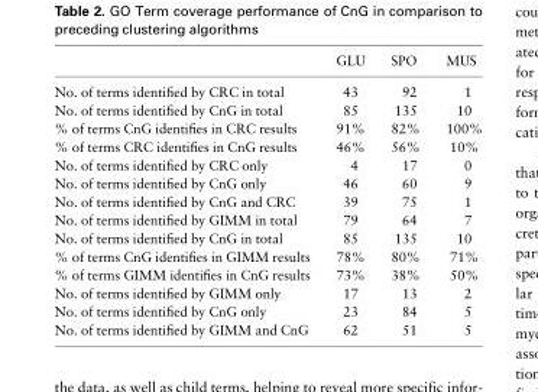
<table><thead><tr><td></td><td>GLU</td><td>SPO</td><td>MUS</td></tr></thead><tbody><tr><td>No. of terms identified by CRC in total</td><td>43</td><td>92</td><td>1</td></tr><tr><td>No. of terms identified by CnG in total</td><td>85</td><td>135</td><td>10</td></tr><tr><td>% of terms CnG identifies in CRC results</td><td>91%</td><td>82%</td><td>100%</td></tr><tr><td>% of terms CRC identifies in CnG results</td><td>46%</td><td>56%</td><td>10%</td></tr><tr><td>No. of terms identified by CRC only</td><td>4</td><td>17</td><td>0</td></tr><tr><td>No. of terms identified by CnG only</td><td>46</td><td>60</td><td>9</td></tr><tr><td>No. of terms identified by CnG and CRC</td><td>39</td><td>75</td><td>1</td></tr><tr><td>No. of terms identified by GIMM in total</td><td>79</td><td>64</td><td>7</td></tr><tr><td>No. of terms identified by CnG in total</td><td>85</td><td>135</td><td>10</td></tr><tr><td>% of terms CnG identifies in GIMM results</td><td>78%</td><td>80%</td><td>71%</td></tr><tr><td>% of terms GIMM identifies in CnG results</td><td>73%</td><td>38%</td><td>50%</td></tr><tr><td>No. of terms identified by GIMM only</td><td>17</td><td>13</td><td>2</td></tr><tr><td>No. of terms identified by CnG only</td><td>23</td><td>84</td><td>5</td></tr><tr><td>No. of terms identified by GIMM and CnG</td><td>62</td><td>51</td><td>5</td></tr></tbody></table>